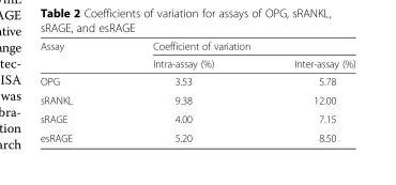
<table><thead><tr><td rowspan="2">Assay</td><td colspan="2">Coefficient of variation</td></tr><tr><td>Intra-assay (%)</td><td>Inter-assay (%)</td></tr></thead><tbody><tr><td>OPG</td><td>3.53</td><td>5.78</td></tr><tr><td>sRANKL</td><td>9.38</td><td>12.00</td></tr><tr><td>sRAGE</td><td>4.00</td><td>7.15</td></tr><tr><td>esRAGE</td><td>5.20</td><td>8.50</td></tr></tbody></table>